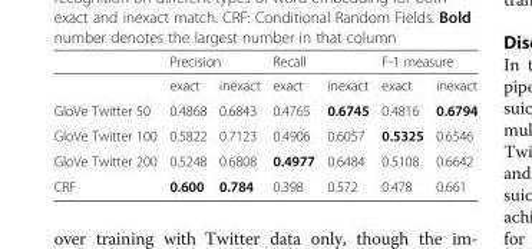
<table><thead><tr><td rowspan="2"></td><td colspan="2">Precision</td><td colspan="2">Recall</td><td colspan="2">F-1 measure</td></tr><tr><td>exact</td><td>inexact</td><td>exact</td><td>inexact</td><td>exact</td><td>inexact</td></tr></thead><tbody><tr><td>GloVe Twitter 50</td><td>0.4868</td><td>0.6843</td><td>0.4765</td><td>0.6745</td><td>0.4816</td><td>0.6794</td></tr><tr><td>GloVe Twitter 100</td><td>0.5822</td><td>0.7123</td><td>0.4906</td><td>0.6057</td><td>0.5325</td><td>0.6546</td></tr><tr><td>GloVe Twitter 200</td><td>0.5248</td><td>0.6808</td><td>0.4977</td><td>0.6484</td><td>0.5108</td><td>0.6642</td></tr><tr><td>CRF</td><td>0.600</td><td>0.784</td><td>0.398</td><td>0.572</td><td>0.478</td><td>0.661</td></tr></tbody></table>